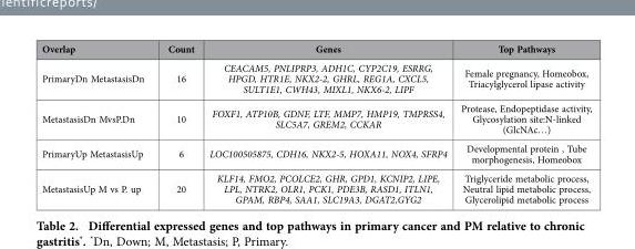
<table><thead><tr><td>Overlap</td><td>Count</td><td>Genes</td><td>Top Pathways</td></tr></thead><tbody><tr><td>PrimaryDn MetastasisDn</td><td>16</td><td>CEACAM5, PNLIPRP3, ADH1C, CYP2C19, ESRRG, HPGD, HTR1E, NKX2-2, GHRL, REG1A, CXCL5, SULT1E1, CWH43, MIXL1, NKX6-2, LIPF</td><td>Female pregnancy, Homeobox, Triacylglycerol lipase activity</td></tr><tr><td>MetastasisDn MvsP.Dn</td><td>10</td><td>FOXF1, ATP10B, GDNF, LTF, MMP7, HMP19, TMPRSS4, SLC5A7, GREM2, CCKAR</td><td>Protease, Endopeptidase activity, Glycosylation site:N-linked (GlcNAc…)</td></tr><tr><td>PrimaryUp MetastasisUp</td><td>6</td><td>LOC100505875, CDH16, NKX2-5, HOXA11, NOX4, SFRP4</td><td>Developmental protein , Tube morphogenesis, Homeobox</td></tr><tr><td>MetastasisUp M vs P. up</td><td>20</td><td>KLF14, FMO2, PCOLCE2, GHR, GPD1, KCNIP2, LIPE, LPL, NTRK2, OLR1, PCK1, PDE3B, RASD1, ITLN1, GPAM, RBP4, SAA1, SLC19A3, DGAT2,GYG2</td><td>Triglyceride metabolic process, Neutral lipid metabolic process, Glycerolipid metabolic process</td></tr></tbody></table>